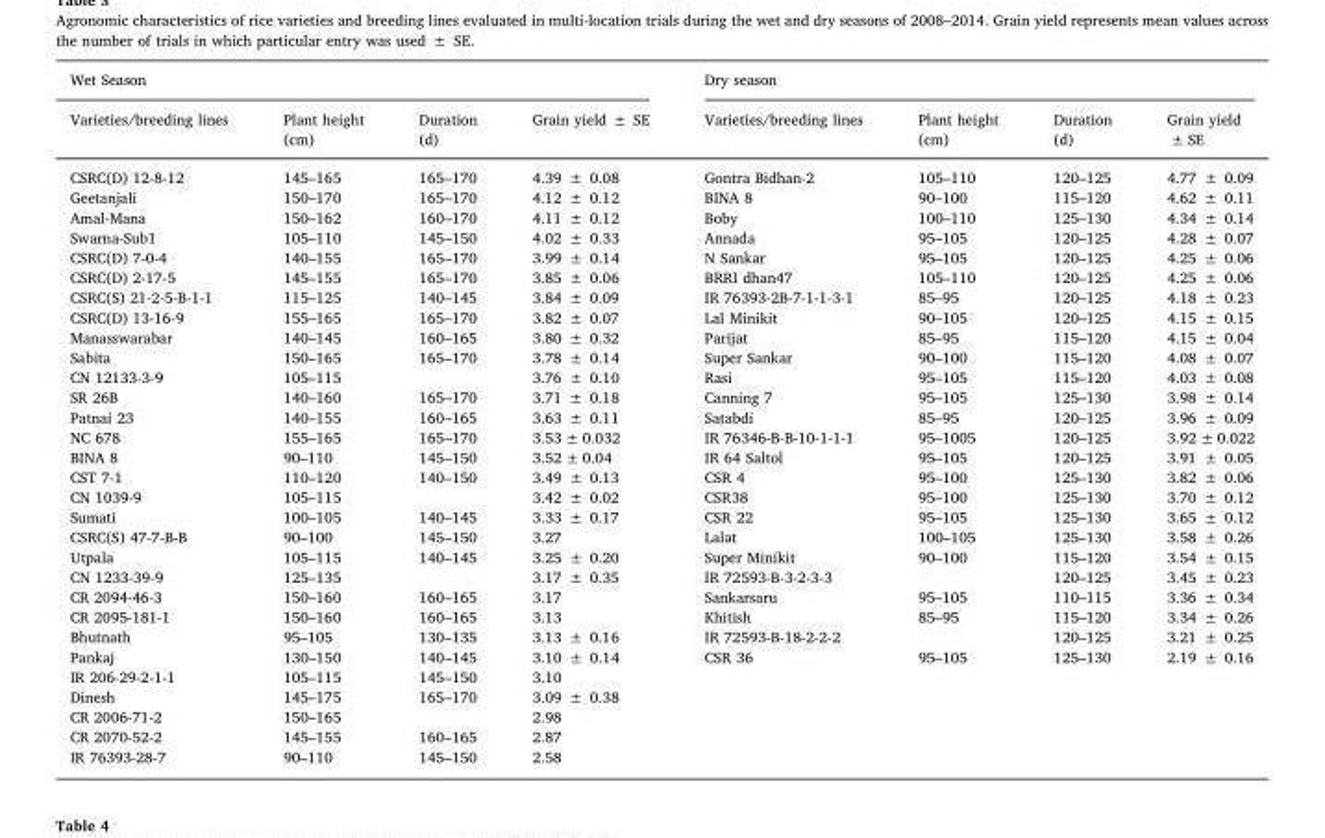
<table><thead><tr><td colspan="4">Wet Season</td><td colspan="4">Dry season</td></tr><tr><td>Varieties/breeding lines</td><td>Plant height (cm)</td><td>Duration (d)</td><td>Grain yield ± SE</td><td>Varieties/breeding lines</td><td>Plant height (cm)</td><td>Duration (d)</td><td>Grain yield ± SE</td></tr></thead><tbody><tr><td>CSRC(D) 12-8-12</td><td>145–165</td><td>165–170</td><td>4.39 ± 0.08</td><td>Gontra Bidhan-2</td><td>105–110</td><td>120–125</td><td>4.77 ± 0.09</td></tr><tr><td>Geetanjali</td><td>150–170</td><td>165–170</td><td>4.12 ± 0.12</td><td>BINA 8</td><td>90–100</td><td>115–120</td><td>4.62 ± 0.11</td></tr><tr><td>Amal-Mana</td><td>150–162</td><td>160–170</td><td>4.11 ± 0.12</td><td>Boby</td><td>100–110</td><td>125–130</td><td>4.34 ± 0.14</td></tr><tr><td>Swarna-Sub1</td><td>105–110</td><td>145–150</td><td>4.02 ± 0.33</td><td>Annada</td><td>95–105</td><td>120–125</td><td>4.28 ± 0.07</td></tr><tr><td>CSRC(D) 7-0-4</td><td>140–155</td><td>165–170</td><td>3.99 ± 0.14</td><td>N Sankar</td><td>95–105</td><td>120–125</td><td>4.25 ± 0.06</td></tr><tr><td>CSRC(D) 2-17-5</td><td>145–155</td><td>165–170</td><td>3.85 ± 0.06</td><td>BRRI dhan47</td><td>105–110</td><td>120–125</td><td>4.25 ± 0.06</td></tr><tr><td>CSRC(S) 21-2-5-B-1-1</td><td>115–125</td><td>140–145</td><td>3.84 ± 0.09</td><td>IR 76393-2B-7-1-1-3-1</td><td>85–95</td><td>120–125</td><td>4.18 ± 0.23</td></tr><tr><td>CSRC(D) 13-16-9</td><td>155–165</td><td>165–170</td><td>3.82 ± 0.07</td><td>Lal Minikit</td><td>90–105</td><td>120–125</td><td>4.15 ± 0.15</td></tr><tr><td>Manasswarabar</td><td>140–145</td><td>160–165</td><td>3.80 ± 0.32</td><td>Parijat</td><td>85–95</td><td>115–120</td><td>4.15 ± 0.04</td></tr><tr><td>Sabita</td><td>150–165</td><td>165–170</td><td>3.78 ± 0.14</td><td>Super Sankar</td><td>90–100</td><td>115–120</td><td>4.08 ± 0.07</td></tr><tr><td>CN 12133-3-9</td><td>105–115</td><td></td><td>3.76 ± 0.10</td><td>Rasi</td><td>95–105</td><td>115–120</td><td>4.03 ± 0.08</td></tr><tr><td>SR 26B</td><td>140–160</td><td>165–170</td><td>3.71 ± 0.18</td><td>Canning 7</td><td>95–105</td><td>125–130</td><td>3.98 ± 0.14</td></tr><tr><td>Patnai 23</td><td>140–155</td><td>160–165</td><td>3.63 ± 0.11</td><td>Satabdi</td><td>85–95</td><td>120–125</td><td>3.96 ± 0.09</td></tr><tr><td>NC 678</td><td>155–165</td><td>165–170</td><td>3.53 ± 0.032</td><td>IR 76346-B-B-10-1-1-1</td><td>95–1005</td><td>120–125</td><td>3.92 ± 0.022</td></tr><tr><td>BINA 8</td><td>90–110</td><td>145–150</td><td>3.52 ± 0.04</td><td>IR 64 Saltol</td><td>95–105</td><td>120–125</td><td>3.91 ± 0.05</td></tr><tr><td>CST 7-1</td><td>110–120</td><td>140–150</td><td>3.49 ± 0.13</td><td>CSR 4</td><td>95–100</td><td>125–130</td><td>3.82 ± 0.06</td></tr><tr><td>CN 1039-9</td><td>105–115</td><td></td><td>3.42 ± 0.02</td><td>CSR38</td><td>95–100</td><td>125–130</td><td>3.70 ± 0.12</td></tr><tr><td>Sumati</td><td>100–105</td><td>140–145</td><td>3.33 ± 0.17</td><td>CSR 22</td><td>95–105</td><td>125–130</td><td>3.65 ± 0.12</td></tr><tr><td>CSRC(S) 47-7-B-B</td><td>90–100</td><td>145–150</td><td>3.27</td><td>Lalat</td><td>100–105</td><td>125–130</td><td>3.58 ± 0.26</td></tr><tr><td>Utpala</td><td>105–115</td><td>140–145</td><td>3.25 ± 0.20</td><td>Super Minikit</td><td>90–100</td><td>115–120</td><td>3.54 ± 0.15</td></tr><tr><td>CN 1233-39-9</td><td>125–135</td><td></td><td>3.17 ± 0.35</td><td>IR 72593-B-3-2-3-3</td><td></td><td>120–125</td><td>3.45 ± 0.23</td></tr><tr><td>CR 2094-46-3</td><td>150–160</td><td>160–165</td><td>3.17</td><td>Sankarsaru</td><td>95–105</td><td>110–115</td><td>3.36 ± 0.34</td></tr><tr><td>CR 2095-181-1</td><td>150–160</td><td>160–165</td><td>3.13</td><td>Khitish</td><td>85–95</td><td>115–120</td><td>3.34 ± 0.26</td></tr><tr><td>Bhutnath</td><td>95–105</td><td>130–135</td><td>3.13 ± 0.16</td><td>IR 72593-B-18-2-2-2</td><td></td><td>120–125</td><td>3.21 ± 0.25</td></tr><tr><td>Pankaj</td><td>130–150</td><td>140–145</td><td>3.10 ± 0.14</td><td>CSR 36</td><td>95–105</td><td>125–130</td><td>2.19 ± 0.16</td></tr><tr><td>IR 206-29-2-1-1</td><td>105–115</td><td>145–150</td><td>3.10</td><td></td><td></td><td></td><td></td></tr><tr><td>Dinesh</td><td>145–175</td><td>165–170</td><td>3.09 ± 0.38</td><td></td><td></td><td></td><td></td></tr><tr><td>CR 2006-71-2</td><td>150–165</td><td></td><td>2.98</td><td></td><td></td><td></td><td></td></tr><tr><td>CR 2070-52-2</td><td>145–155</td><td>160–165</td><td>2.87</td><td></td><td></td><td></td><td></td></tr><tr><td>IR 76393-28-7</td><td>90–110</td><td>145–150</td><td>2.58</td><td></td><td></td><td></td><td></td></tr></tbody></table>